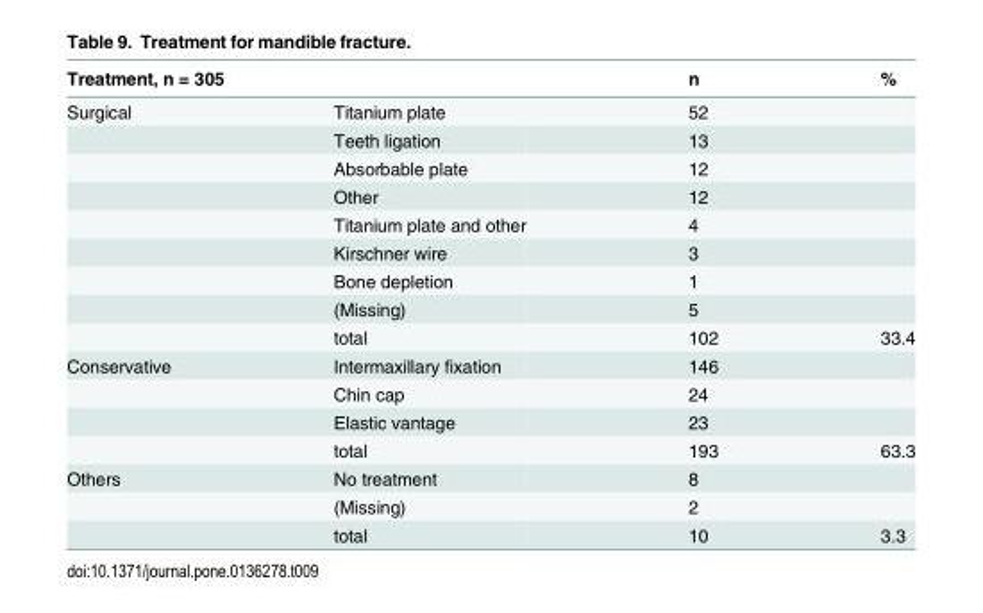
<table><thead><tr><td colspan="2">Treatment, n = 305</td><td rowspan="2">n 52</td><td rowspan="2">%</td></tr><tr><td>Surgical</td><td>Titanium plate</td></tr></thead><tbody><tr><td></td><td>Teeth ligation</td><td>13</td><td></td></tr><tr><td></td><td>Absorbable plate</td><td>12</td><td></td></tr><tr><td></td><td>Other</td><td>12</td><td></td></tr><tr><td></td><td>Titanium plate and other</td><td>4</td><td></td></tr><tr><td></td><td>Kirschner wire</td><td>3</td><td></td></tr><tr><td></td><td>Bone depletion</td><td>1</td><td></td></tr><tr><td></td><td>(Missing)</td><td>5</td><td></td></tr><tr><td></td><td>total</td><td>102</td><td>33.4</td></tr><tr><td rowspan="4">Conservative</td><td>Intermaxillary fixation</td><td>146</td><td></td></tr><tr><td>Chin cap</td><td>24</td><td></td></tr><tr><td>Elastic vantage</td><td>23</td><td></td></tr><tr><td>total</td><td>193</td><td>63.3</td></tr><tr><td rowspan="3">Others</td><td>No treatment</td><td>8</td><td></td></tr><tr><td>(Missing)</td><td>2</td><td></td></tr><tr><td>total</td><td>10</td><td>3.3</td></tr></tbody></table>